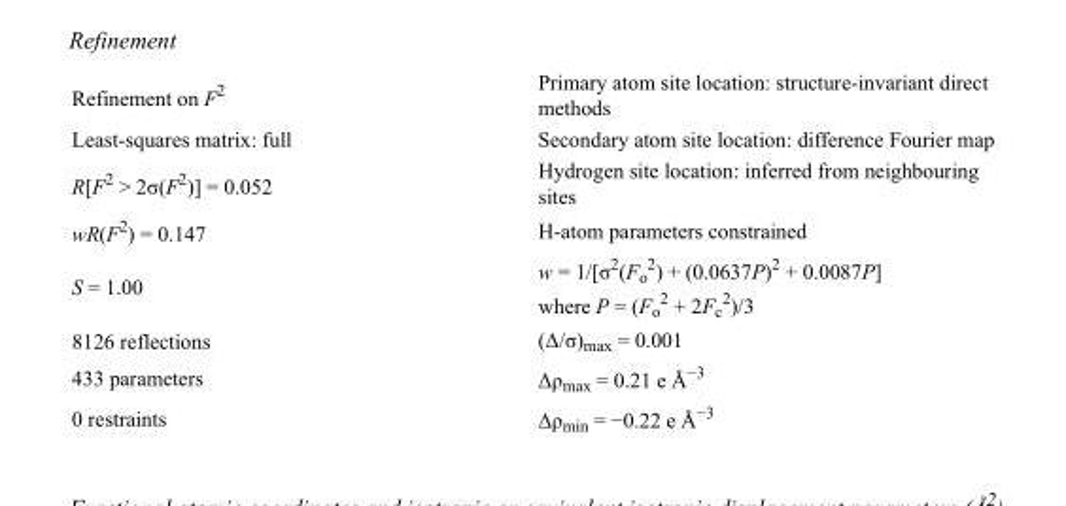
<table><tbody><tr><td>Refinement on F<sup>2</sup></td><td>Primary atom site location: structure-invariant direct methods</td></tr><tr><td>Least-squares matrix: full</td><td>Secondary atom site location: difference Fourier map</td></tr><tr><td>R[F<sup>2</sup> &gt; 2σ(F<sup>2</sup>)] = 0.052</td><td>Hydrogen site location: inferred from neighbouring sites</td></tr><tr><td>wR(F<sup>2</sup>) = 0.147</td><td>H-atom parameters constrained</td></tr><tr><td>S = 1.00</td><td>w = 1/[σ<sup>2</sup>(F<sub>o</sub> <sup>2</sup>) + (0.0637P)<sup>2</sup> + 0.0087P] where P = (F<sub>o</sub> <sup>2</sup> + 2F<sub>c</sub> <sup>2</sup>)/3</td></tr><tr><td>8126 reflections</td><td>(Δ/σ)<sub>max</sub> = 0.001</td></tr><tr><td>433 parameters</td><td>Δρ<sub>max</sub> = 0.21 e Å<sup>−3</sup></td></tr><tr><td>0 restraints</td><td>Δρ<sub>min</sub> = −0.22 e Å<sup>−3</sup></td></tr></tbody></table>